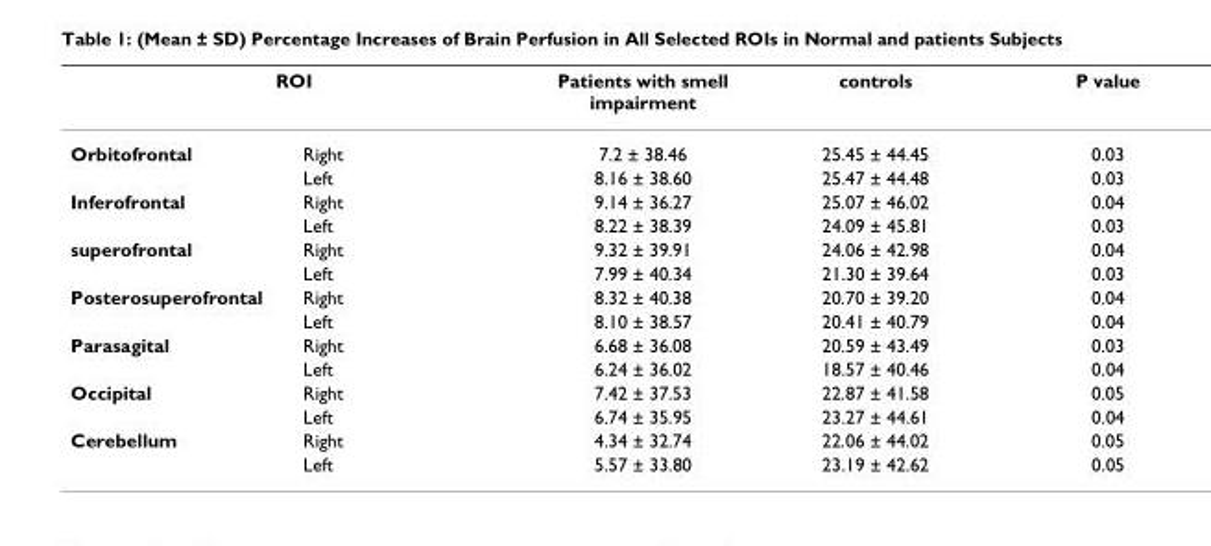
<table><thead><tr><td colspan="2">ROI</td><td rowspan="2">Patients with smell impairment 7.2 ± 38.46</td><td rowspan="2">controls 25.45 ± 44.45</td><td rowspan="2">P value 0.03</td></tr><tr><td>Orbitofrontal</td><td>Right</td></tr></thead><tbody><tr><td></td><td>Left</td><td>8.16 ± 38.60</td><td>25.47 ± 44.48</td><td>0.03</td></tr><tr><td rowspan="2">Inferofrontal</td><td>Right</td><td>9.14 ± 36.27</td><td>25.07 ± 46.02</td><td>0.04</td></tr><tr><td>Left</td><td>8.22 ± 38.39</td><td>24.09 ± 45.81</td><td>0.03</td></tr><tr><td rowspan="2">superofrontal</td><td>Right</td><td>9.32 ± 39.91</td><td>24.06 ± 42.98</td><td>0.04</td></tr><tr><td>Left</td><td>7.99 ± 40.34</td><td>21.30 ± 39.64</td><td>0.03</td></tr><tr><td rowspan="2">Posterosuperofrontal</td><td>Right</td><td>8.32 ± 40.38</td><td>20.70 ± 39.20</td><td>0.04</td></tr><tr><td>Left</td><td>8.10 ± 38.57</td><td>20.41 ± 40.79</td><td>0.04</td></tr><tr><td rowspan="2">Parasagital</td><td>Right</td><td>6.68 ± 36.08</td><td>20.59 ± 43.49</td><td>0.03</td></tr><tr><td>Left</td><td>6.24 ± 36.02</td><td>18.57 ± 40.46</td><td>0.04</td></tr><tr><td rowspan="2">Occipital</td><td>Right</td><td>7.42 ± 37.53</td><td>22.87 ± 41.58</td><td>0.05</td></tr><tr><td>Left</td><td>6.74 ± 35.95</td><td>23.27 ± 44.61</td><td>0.04</td></tr><tr><td rowspan="2">Cerebellum</td><td>Right</td><td>4.34 ± 32.74</td><td>22.06 ± 44.02</td><td>0.05</td></tr><tr><td>Left</td><td>5.57 ± 33.80</td><td>23.19 ± 42.62</td><td>0.05</td></tr></tbody></table>